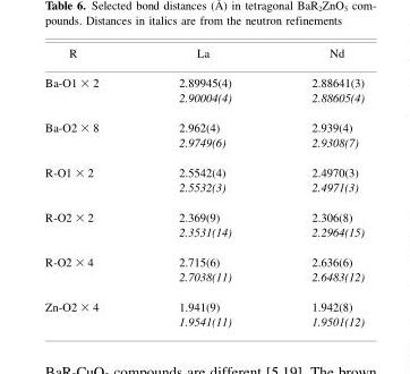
<table><thead><tr><td>R</td><td>La</td><td>Nd</td></tr></thead><tbody><tr><td rowspan="2">Ba-O1 × 2</td><td>2.89945(4)</td><td>2.88641(3)</td></tr><tr><td>2.90004(4)</td><td>2.88605(4)</td></tr><tr><td rowspan="2">Ba-O2 × 8</td><td>2.962(4)</td><td>2.939(4)</td></tr><tr><td>2.9749(6)</td><td>2.9308(7)</td></tr><tr><td rowspan="2">R-O1 × 2</td><td>2.5542(4)</td><td>2.4970(3)</td></tr><tr><td>2.5532(3)</td><td>2.4971(3)</td></tr><tr><td rowspan="2">R-O2 × 2</td><td>2.369(9)</td><td>2.306(8)</td></tr><tr><td>2.3531(14)</td><td>2.2964(15)</td></tr><tr><td rowspan="2">R-O2 × 4</td><td>2.715(6)</td><td>2.636(6)</td></tr><tr><td>2.7038(11)</td><td>2.6483(12)</td></tr><tr><td rowspan="2">Zn-O2 × 4</td><td>1.941(9)</td><td>1.942(8)</td></tr><tr><td>1.9541(11)</td><td>1.9501(12)</td></tr></tbody></table>